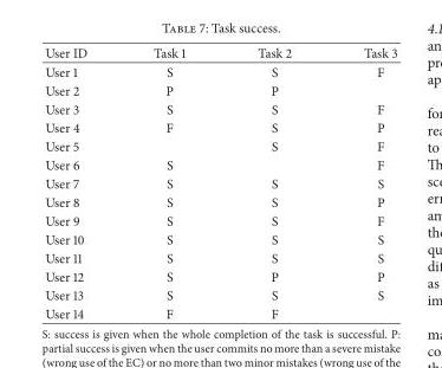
<table><thead><tr><td>User ID</td><td>Task 1</td><td>Task 2</td><td>Task 3</td></tr></thead><tbody><tr><td>User 1</td><td>S</td><td>S</td><td>F</td></tr><tr><td>User 2</td><td>P</td><td>P</td><td></td></tr><tr><td>User 3</td><td>S</td><td>S</td><td>F</td></tr><tr><td>User 4</td><td>F</td><td>S</td><td>P</td></tr><tr><td>User 5</td><td></td><td>S</td><td>F</td></tr><tr><td>User 6</td><td>S</td><td></td><td>F</td></tr><tr><td>User 7</td><td>S</td><td>S</td><td>S</td></tr><tr><td>User 8</td><td>S</td><td>S</td><td>P</td></tr><tr><td>User 9</td><td>S</td><td>S</td><td>F</td></tr><tr><td>User 10</td><td>S</td><td>S</td><td>S</td></tr><tr><td>User 11</td><td>S</td><td>S</td><td>S</td></tr><tr><td>User 12</td><td>S</td><td>P</td><td>P</td></tr><tr><td>User 13</td><td>S</td><td>S</td><td>S</td></tr><tr><td>User 14</td><td>F</td><td>F</td><td></td></tr></tbody></table>